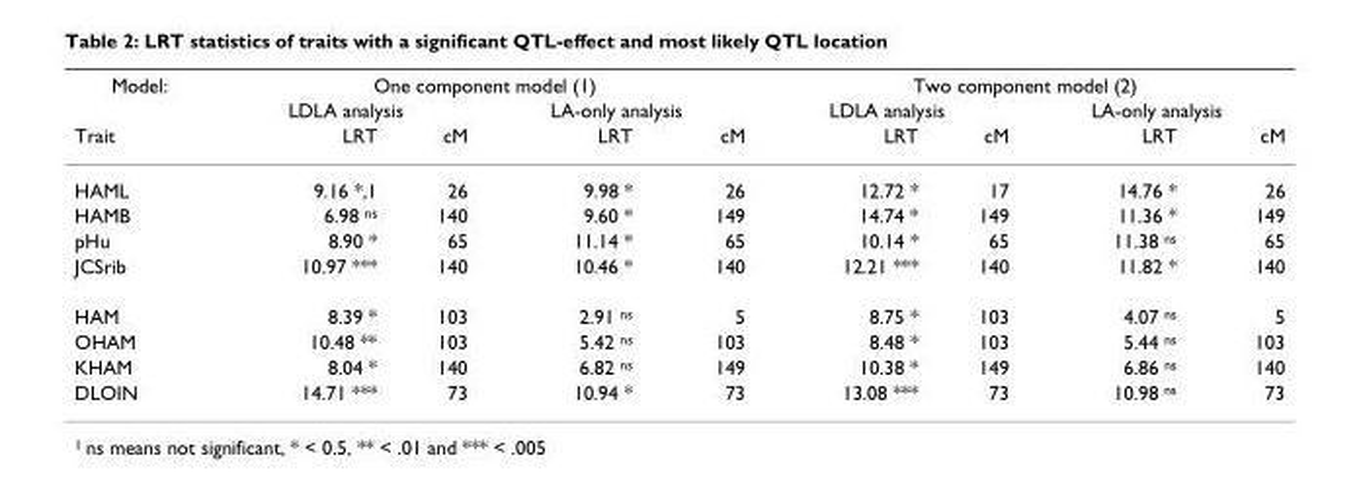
<table><thead><tr><td rowspan="3">Model: Trait</td><td colspan="4">One component model (1)</td><td colspan="4">Two component model (2)</td></tr><tr><td colspan="2">LDLA analysis</td><td colspan="2">LA-only analysis</td><td colspan="2">LDLA analysis</td><td colspan="2">LA-only analysis</td></tr><tr><td>LRT</td><td>cM</td><td>LRT</td><td>cM</td><td>LRT</td><td>cM</td><td>LRT</td><td>cM</td></tr></thead><tbody><tr><td>HAML</td><td>9.16 *,1</td><td>26</td><td>9.98 *</td><td>26</td><td>12.72 *</td><td>17</td><td>14.76 *</td><td>26</td></tr><tr><td>HAMB</td><td>6.98 <sup>ns</sup></td><td>140</td><td>9.60 *</td><td>149</td><td>14.74 *</td><td>149</td><td>11.36 *</td><td>149</td></tr><tr><td>pHu</td><td>8.90 *</td><td>65</td><td>11.14 *</td><td>65</td><td>10.14 *</td><td>65</td><td>11.38 <sup>ns</sup></td><td>65</td></tr><tr><td>JCSrib</td><td>10.97 ***</td><td>140</td><td>10.46 *</td><td>140</td><td>12.21 ***</td><td>140</td><td>11.82 *</td><td>140</td></tr><tr><td>HAM</td><td>8.39 *</td><td>103</td><td>2.91 <sup>ns</sup></td><td>5</td><td>8.75 *</td><td>103</td><td>4.07 <sup>ns</sup></td><td>5</td></tr><tr><td>OHAM</td><td>10.48 **</td><td>103</td><td>5.42 <sup>ns</sup></td><td>103</td><td>8.48 *</td><td>103</td><td>5.44 <sup>ns</sup></td><td>103</td></tr><tr><td>KHAM</td><td>8.04 *</td><td>140</td><td>6.82 <sup>ns</sup></td><td>149</td><td>10.38 *</td><td>149</td><td>6.86 <sup>ns</sup></td><td>140</td></tr><tr><td>DLOIN</td><td>14.71 ***</td><td>73</td><td>10.94 *</td><td>73</td><td>13.08 ***</td><td>73</td><td>10.98 <sup>ns</sup></td><td>73</td></tr></tbody></table>